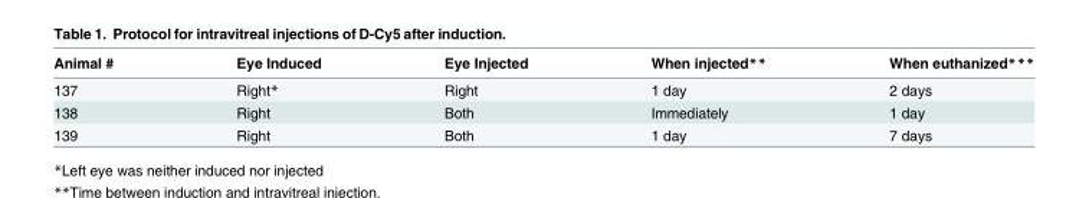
<table><thead><tr><td>Animal #</td><td>Eye Induced</td><td>Eye Injected</td><td>When injected**</td><td>When euthanized***</td></tr></thead><tbody><tr><td>137</td><td>Right*</td><td>Right</td><td>1 day</td><td>2 days</td></tr><tr><td>138</td><td>Right</td><td>Both</td><td>Immediately</td><td>1 day</td></tr><tr><td>139</td><td>Right</td><td>Both</td><td>1 day</td><td>7 days</td></tr></tbody></table>